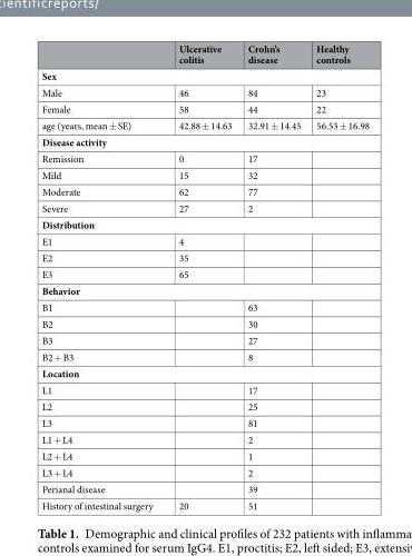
<table><thead><tr><td></td><td>Ulcerative colitis</td><td>Crohn’s disease</td><td>Healthy controls</td></tr></thead><tbody><tr><td colspan="4">Sex</td></tr><tr><td>Male</td><td>46</td><td>84</td><td>23</td></tr><tr><td>Female</td><td>58</td><td>44</td><td>22</td></tr><tr><td>age (years, mean ± SE)</td><td>42.88 ± 14.63</td><td>32.91 ± 14.45</td><td>56.53 ± 16.98</td></tr><tr><td colspan="4">Disease activity</td></tr><tr><td>Remission</td><td>0</td><td>17</td><td></td></tr><tr><td>Mild</td><td>15</td><td>32</td><td></td></tr><tr><td>Moderate</td><td>62</td><td>77</td><td></td></tr><tr><td>Severe</td><td>27</td><td>2</td><td></td></tr><tr><td colspan="4">Distribution</td></tr><tr><td>E1</td><td>4</td><td></td><td></td></tr><tr><td>E2</td><td>35</td><td></td><td></td></tr><tr><td>E3</td><td>65</td><td></td><td></td></tr><tr><td colspan="4">Behavior</td></tr><tr><td>B1</td><td></td><td>63</td><td></td></tr><tr><td>B2</td><td></td><td>30</td><td></td></tr><tr><td>B3</td><td></td><td>27</td><td></td></tr><tr><td>B2 + B3</td><td></td><td>8</td><td></td></tr><tr><td colspan="4">Location</td></tr><tr><td>L1</td><td></td><td>17</td><td></td></tr><tr><td>L2</td><td></td><td>25</td><td></td></tr><tr><td>L3</td><td></td><td>81</td><td></td></tr><tr><td>L1 + L4</td><td></td><td>2</td><td></td></tr><tr><td>L2 + L4</td><td></td><td>1</td><td></td></tr><tr><td>L3 + L4</td><td></td><td>2</td><td></td></tr><tr><td>Perianal disease</td><td></td><td>39</td><td></td></tr><tr><td>History of intestinal surgery</td><td>20</td><td>51</td><td></td></tr></tbody></table>